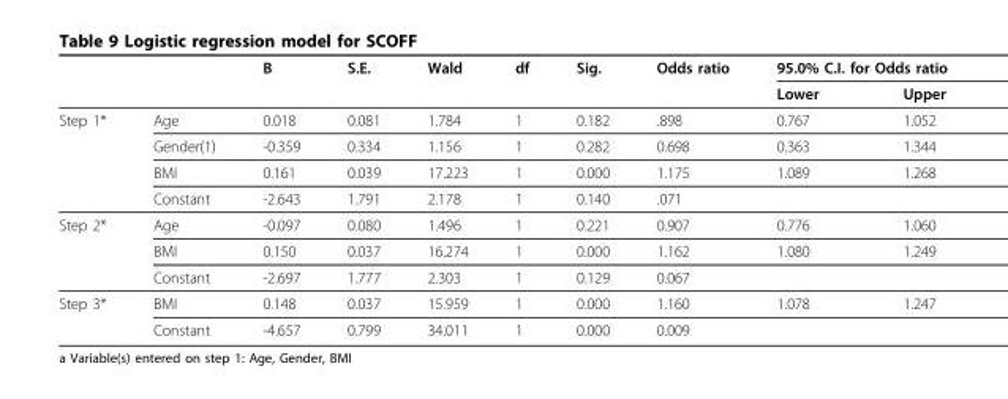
<table><thead><tr><td rowspan="2"></td><td rowspan="2"></td><td rowspan="2">B</td><td rowspan="2">S.E.</td><td rowspan="2">Wald</td><td rowspan="2">df</td><td rowspan="2">Sig.</td><td rowspan="2">Odds ratio</td><td colspan="2">95.0% C.I. for Odds ratio</td></tr><tr><td>Lower</td><td>Upper</td></tr></thead><tbody><tr><td rowspan="4">Step 1*</td><td>Age</td><td>0.018</td><td>0.081</td><td>1.784</td><td>1</td><td>0.182</td><td>.898</td><td>0.767</td><td>1.052</td></tr><tr><td>Gender(1)</td><td>-0.359</td><td>0.334</td><td>1.156</td><td>1</td><td>0.282</td><td>0.698</td><td>0.363</td><td>1.344</td></tr><tr><td>BMI</td><td>0.161</td><td>0.039</td><td>17.223</td><td>1</td><td>0.000</td><td>1.175</td><td>1.089</td><td>1.268</td></tr><tr><td>Constant</td><td>-2.643</td><td>1.791</td><td>2.178</td><td>1</td><td>0.140</td><td>.071</td><td></td><td></td></tr><tr><td rowspan="3">Step 2*</td><td>Age</td><td>-0.097</td><td>0.080</td><td>1.496</td><td>1</td><td>0.221</td><td>0.907</td><td>0.776</td><td>1.060</td></tr><tr><td>BMI</td><td>0.150</td><td>0.037</td><td>16.274</td><td>1</td><td>0.000</td><td>1.162</td><td>1.080</td><td>1.249</td></tr><tr><td>Constant</td><td>-2.697</td><td>1.777</td><td>2.303</td><td>1</td><td>0.129</td><td>0.067</td><td></td><td></td></tr><tr><td rowspan="2">Step 3*</td><td>BMI</td><td>0.148</td><td>0.037</td><td>15.959</td><td>1</td><td>0.000</td><td>1.160</td><td>1.078</td><td>1.247</td></tr><tr><td>Constant</td><td>-4.657</td><td>0.799</td><td>34.011</td><td>1</td><td>0.000</td><td>0.009</td><td></td><td></td></tr></tbody></table>